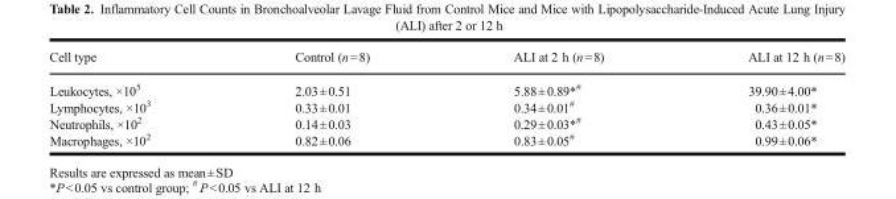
<table><thead><tr><td>Cell type</td><td>Control (n=8)</td><td>ALI at 2 h (n=8)</td><td>ALI at 12 h (n=8)</td></tr></thead><tbody><tr><td>Leukocytes, ×10<sup>5</sup></td><td>2.03±0.51</td><td>5.88±0.89*<sup>#</sup></td><td>39.90±4.00*</td></tr><tr><td>Lymphocytes, ×10<sup>3</sup></td><td>0.33±0.01</td><td>0.34±0.01<sup>#</sup></td><td>0.36±0.01*</td></tr><tr><td>Neutrophils, ×10<sup>2</sup></td><td>0.14±0.03</td><td>0.29±0.03*<sup>#</sup></td><td>0.43±0.05*</td></tr><tr><td>Macrophages, ×10<sup>2</sup></td><td>0.82±0.06</td><td>0.83±0.05<sup>#</sup></td><td>0.99±0.06*</td></tr></tbody></table>